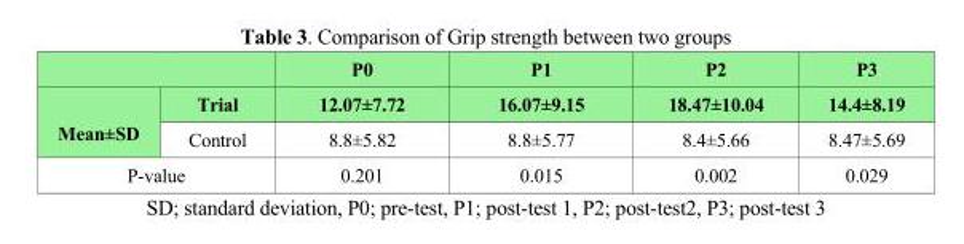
<table><thead><tr><td></td><td></td><td>P0</td><td>P1</td><td>P2</td><td>P3</td></tr></thead><tbody><tr><td rowspan="2">Mean±SD</td><td>Trial</td><td>12.07±7.72</td><td>16.07±9.15</td><td>18.47±10.04</td><td>14.4±8.19</td></tr><tr><td>Control</td><td>8.8±5.82</td><td>8.8±5.77</td><td>8.4±5.66</td><td>8.47±5.69</td></tr><tr><td colspan="2">P<sub>-value</sub></td><td>0.201</td><td>0.015</td><td>0.002</td><td>0.029</td></tr></tbody></table>